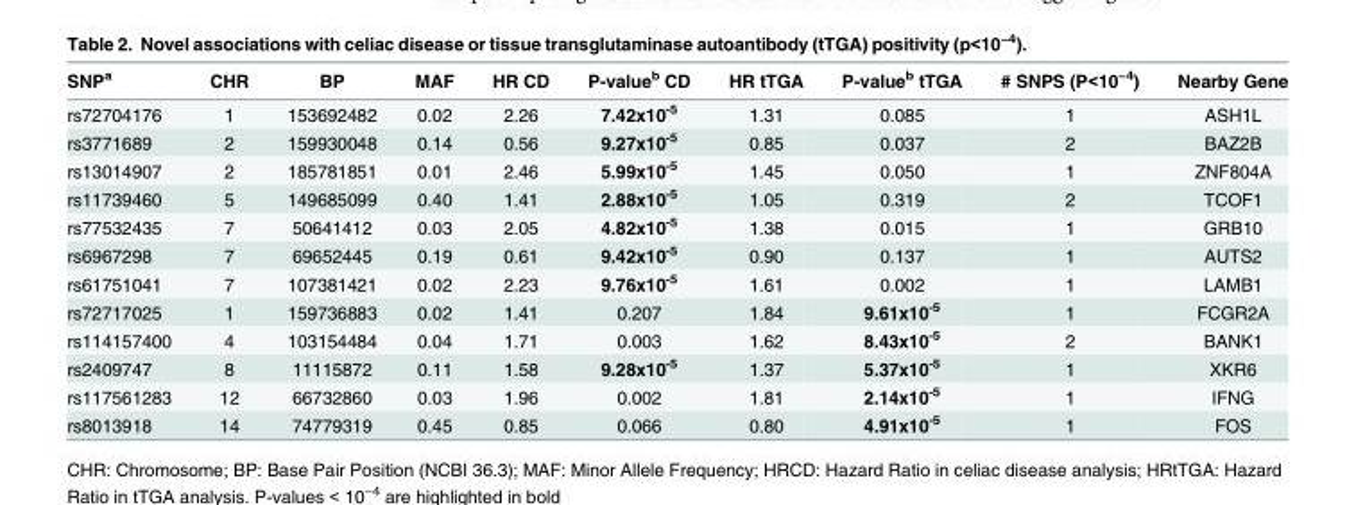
<table><thead><tr><td>SNP<sup>a</sup></td><td>CHR</td><td>BP</td><td>MAF</td><td>HR CD</td><td>P-value<sup>b</sup> CD</td><td>HR tTGA</td><td>P-value<sup>b</sup> tTGA</td><td># SNPS (P&lt;10<sup>−4</sup>)</td><td>Nearby Gene</td></tr></thead><tbody><tr><td>rs72704176</td><td>1</td><td>153692482</td><td>0.02</td><td>2.26</td><td>7.42x10<sup>-5</sup></td><td>1.31</td><td>0.085</td><td>1</td><td>ASH1L</td></tr><tr><td>rs3771689</td><td>2</td><td>159930048</td><td>0.14</td><td>0.56</td><td>9.27x10<sup>-5</sup></td><td>0.85</td><td>0.037</td><td>2</td><td>BAZ2B</td></tr><tr><td>rs13014907</td><td>2</td><td>185781851</td><td>0.01</td><td>2.46</td><td>5.99x10<sup>-5</sup></td><td>1.45</td><td>0.050</td><td>1</td><td>ZNF804A</td></tr><tr><td>rs11739460</td><td>5</td><td>149685099</td><td>0.40</td><td>1.41</td><td>2.88x10<sup>-5</sup></td><td>1.05</td><td>0.319</td><td>2</td><td>TCOF1</td></tr><tr><td>rs77532435</td><td>7</td><td>50641412</td><td>0.03</td><td>2.05</td><td>4.82x10<sup>-5</sup></td><td>1.38</td><td>0.015</td><td>1</td><td>GRB10</td></tr><tr><td>rs6967298</td><td>7</td><td>69652445</td><td>0.19</td><td>0.61</td><td>9.42x10<sup>-5</sup></td><td>0.90</td><td>0.137</td><td>1</td><td>AUTS2</td></tr><tr><td>rs61751041</td><td>7</td><td>107381421</td><td>0.02</td><td>2.23</td><td>9.76x10<sup>-5</sup></td><td>1.61</td><td>0.002</td><td>1</td><td>LAMB1</td></tr><tr><td>rs72717025</td><td>1</td><td>159736883</td><td>0.02</td><td>1.41</td><td>0.207</td><td>1.84</td><td>9.61x10<sup>-5</sup></td><td>1</td><td>FCGR2A</td></tr><tr><td>rs114157400</td><td>4</td><td>103154484</td><td>0.04</td><td>1.71</td><td>0.003</td><td>1.62</td><td>8.43x10<sup>-5</sup></td><td>2</td><td>BANK1</td></tr><tr><td>rs2409747</td><td>8</td><td>11115872</td><td>0.11</td><td>1.58</td><td>9.28x10<sup>-5</sup></td><td>1.37</td><td>5.37x10<sup>-5</sup></td><td>1</td><td>XKR6</td></tr><tr><td>rs117561283</td><td>12</td><td>66732860</td><td>0.03</td><td>1.96</td><td>0.002</td><td>1.81</td><td>2.14x10<sup>-5</sup></td><td>1</td><td>IFNG</td></tr><tr><td>rs8013918</td><td>14</td><td>74779319</td><td>0.45</td><td>0.85</td><td>0.066</td><td>0.80</td><td>4.91x10<sup>-5</sup></td><td>1</td><td>FOS</td></tr></tbody></table>